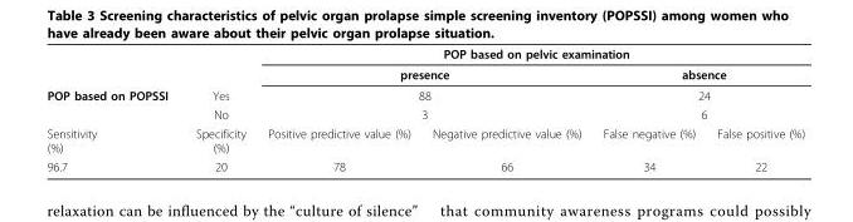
<table><thead><tr><td></td><td></td><td colspan="4">POP based on pelvic examination</td></tr></thead><tbody><tr><td></td><td></td><td colspan="2">presence</td><td colspan="2">absence</td></tr><tr><td rowspan="2">POP based on POPSSI</td><td>Yes</td><td colspan="2">88</td><td colspan="2">24</td></tr><tr><td>No</td><td colspan="2">3</td><td colspan="2">6</td></tr><tr><td>Sensitivity (%)</td><td>Specificity (%)</td><td>Positive predictive value (%)</td><td>Negative predictive value (%)</td><td>False negative (%)</td><td>False positive (%)</td></tr><tr><td>96.7</td><td>20</td><td>78</td><td>66</td><td>34</td><td>22</td></tr></tbody></table>